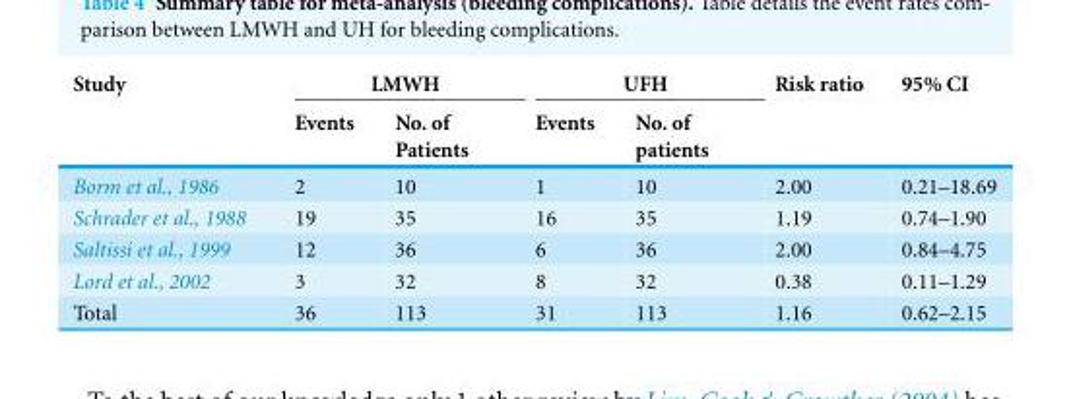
<table><thead><tr><td rowspan="2">Study</td><td colspan="2">LMWH</td><td colspan="2">UFH</td><td rowspan="2">Risk ratio</td><td rowspan="2">95% CI</td></tr><tr><td>Events</td><td>No. of Patients</td><td>Events</td><td>No. of patients</td></tr></thead><tbody><tr><td>Borm et al., 1986</td><td>2</td><td>10</td><td>1</td><td>10</td><td>2.00</td><td>0.21–18.69</td></tr><tr><td>Schrader et al., 1988</td><td>19</td><td>35</td><td>16</td><td>35</td><td>1.19</td><td>0.74–1.90</td></tr><tr><td>Saltissi et al., 1999</td><td>12</td><td>36</td><td>6</td><td>36</td><td>2.00</td><td>0.84–4.75</td></tr><tr><td>Lord et al., 2002</td><td>3</td><td>32</td><td>8</td><td>32</td><td>0.38</td><td>0.11–1.29</td></tr><tr><td>Total</td><td>36</td><td>113</td><td>31</td><td>113</td><td>1.16</td><td>0.62–2.15</td></tr></tbody></table>